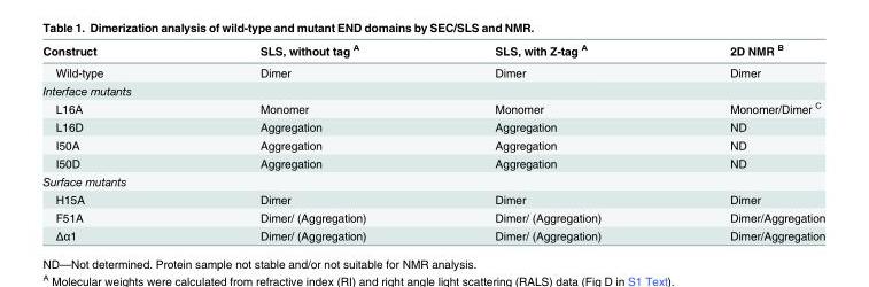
<table><thead><tr><td>Construct</td><td>SLS, without tag <sup>A</sup></td><td>SLS, with Z-tag <sup>A</sup></td><td>2D NMR <sup>B</sup></td></tr></thead><tbody><tr><td>Wild-type</td><td>Dimer</td><td>Dimer</td><td>Dimer</td></tr><tr><td colspan="4">Interface mutants</td></tr><tr><td>L16A</td><td>Monomer</td><td>Monomer</td><td>Monomer/Dimer <sup>C</sup></td></tr><tr><td>L16D</td><td>Aggregation</td><td>Aggregation</td><td>ND</td></tr><tr><td>I50A</td><td>Aggregation</td><td>Aggregation</td><td>ND</td></tr><tr><td>I50D</td><td>Aggregation</td><td>Aggregation</td><td>ND</td></tr><tr><td colspan="4">Surface mutants</td></tr><tr><td>H15A</td><td>Dimer</td><td>Dimer</td><td>Dimer</td></tr><tr><td>F51A</td><td>Dimer/ (Aggregation)</td><td>Dimer/ (Aggregation)</td><td>Dimer/Aggregation</td></tr><tr><td>Δα1</td><td>Dimer/ (Aggregation)</td><td>Dimer/ (Aggregation)</td><td>Dimer/Aggregation</td></tr></tbody></table>